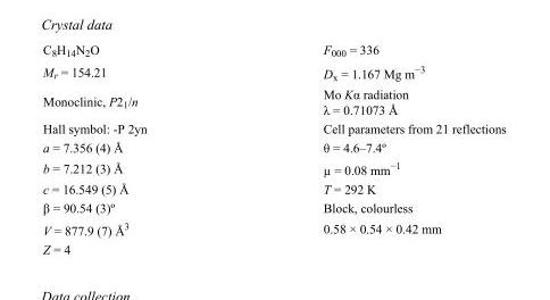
<table><tbody><tr><td>C<sub>8</sub>H<sub>14</sub>N<sub>2</sub>O</td><td>F000 = 336</td></tr><tr><td>M<sub>r</sub> = 154.21</td><td>D<sub>x</sub> = 1.167 Mg m<sup>−3</sup></td></tr><tr><td>Monoclinic, P2<sub>1</sub>/n</td><td>Mo Kα radiation λ = 0.71073 Å</td></tr><tr><td>Hall symbol: -P 2yn</td><td>Cell parameters from 21 reflections</td></tr><tr><td>a = 7.356 (4) Å</td><td>θ = 4.6–7.4º</td></tr><tr><td>b = 7.212 (3) Å</td><td>µ = 0.08 mm<sup>−1</sup></td></tr><tr><td>c = 16.549 (5) Å</td><td>T = 292 K</td></tr><tr><td>β = 90.54 (3)º</td><td>Block, colourless</td></tr><tr><td>V = 877.9 (7) Å<sup>3</sup></td><td>0.58 × 0.54 × 0.42 mm</td></tr><tr><td>Z = 4</td><td></td></tr></tbody></table>